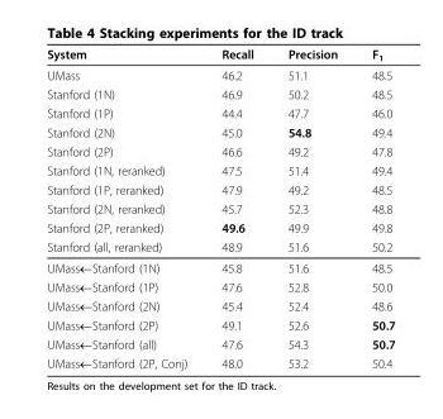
<table><thead><tr><td>System</td><td>Recall</td><td>Precision</td><td>F<sub>1</sub></td></tr></thead><tbody><tr><td>UMass</td><td>46.2</td><td>51.1</td><td>48.5</td></tr><tr><td>Stanford (1N)</td><td>46.9</td><td>50.2</td><td>48.5</td></tr><tr><td>Stanford (1P)</td><td>44.4</td><td>47.7</td><td>46.0</td></tr><tr><td>Stanford (2N)</td><td>45.0</td><td>54.8</td><td>49.4</td></tr><tr><td>Stanford (2P)</td><td>46.6</td><td>49.2</td><td>47.8</td></tr><tr><td>Stanford (1N, reranked)</td><td>47.5</td><td>51.4</td><td>49.4</td></tr><tr><td>Stanford (1P, reranked)</td><td>47.9</td><td>49.2</td><td>48.5</td></tr><tr><td>Stanford (2N, reranked)</td><td>45.7</td><td>52.3</td><td>48.8</td></tr><tr><td>Stanford (2P, reranked)</td><td>49.6</td><td>49.9</td><td>49.8</td></tr><tr><td>Stanford (all, reranked)</td><td>48.9</td><td>51.6</td><td>50.2</td></tr><tr><td>UMass¬Stanford (1N)</td><td>45.8</td><td>51.6</td><td>48.5</td></tr><tr><td>UMass¬Stanford (1P)</td><td>47.6</td><td>52.8</td><td>50.0</td></tr><tr><td>UMass¬Stanford (2N)</td><td>45.4</td><td>52.4</td><td>48.6</td></tr><tr><td>UMass¬Stanford (2P)</td><td>49.1</td><td>52.6</td><td>50.7</td></tr><tr><td>UMass¬Stanford (all)</td><td>47.6</td><td>54.3</td><td>50.7</td></tr><tr><td>UMass¬Stanford (2P, Conj)</td><td>48.0</td><td>53.2</td><td>50.4</td></tr></tbody></table>